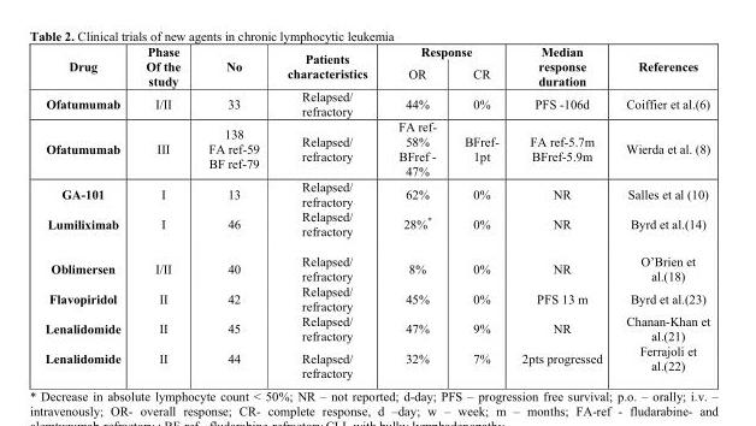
<table><thead><tr><td rowspan="2">Drug</td><td rowspan="2">Phase Of the study</td><td rowspan="2">No</td><td rowspan="2">Patients characteristics</td><td colspan="2">Response</td><td rowspan="2">Median response duration</td><td rowspan="2">References</td></tr><tr><td>OR</td><td>CR</td></tr></thead><tbody><tr><td>Ofatumumab</td><td>I/II</td><td>33</td><td>Relapsed/ refractory</td><td>44%</td><td>0%</td><td>PFS -106d</td><td>Coiffier et al.(6)</td></tr><tr><td>Ofatumumab</td><td>III</td><td>138 FA ref-59 BF ref-79</td><td>Relapsed/ refractory</td><td>FA ref- 58% BFref - 47%</td><td>BFref- 1pt</td><td>FA ref-5.7m BFref-5.9m</td><td>Wierda et al. (8)</td></tr><tr><td>GA-101</td><td>I</td><td>13</td><td>Relapsed/ refractory</td><td>62%</td><td>0%</td><td>NR</td><td>Salles et al (10)</td></tr><tr><td>Lumiliximab</td><td>I</td><td>46</td><td>Relapsed/ refractory</td><td>28%*</td><td>0%</td><td>NR</td><td>Byrd et al.(14)</td></tr><tr><td>Oblimersen</td><td>I/II</td><td>40</td><td>Relapsed/ refractory</td><td>8%</td><td>0%</td><td>NR</td><td>O’Brien et al.(18)</td></tr><tr><td>Flavopiridol</td><td>II</td><td>42</td><td>Relapsed/ refractory</td><td>45%</td><td>0%</td><td>PFS 13 m</td><td>Byrd et al.(23)</td></tr><tr><td>Lenalidomide</td><td>II</td><td>45</td><td>Relapsed/ refractory</td><td>47%</td><td>9%</td><td>NR</td><td>Chanan-Khan et al.(21)</td></tr><tr><td>Lenalidomide</td><td>II</td><td>44</td><td>Relapsed/ refractory</td><td>32%</td><td>7%</td><td>2pts progressed</td><td>Ferrajoli et al.(22)</td></tr></tbody></table>